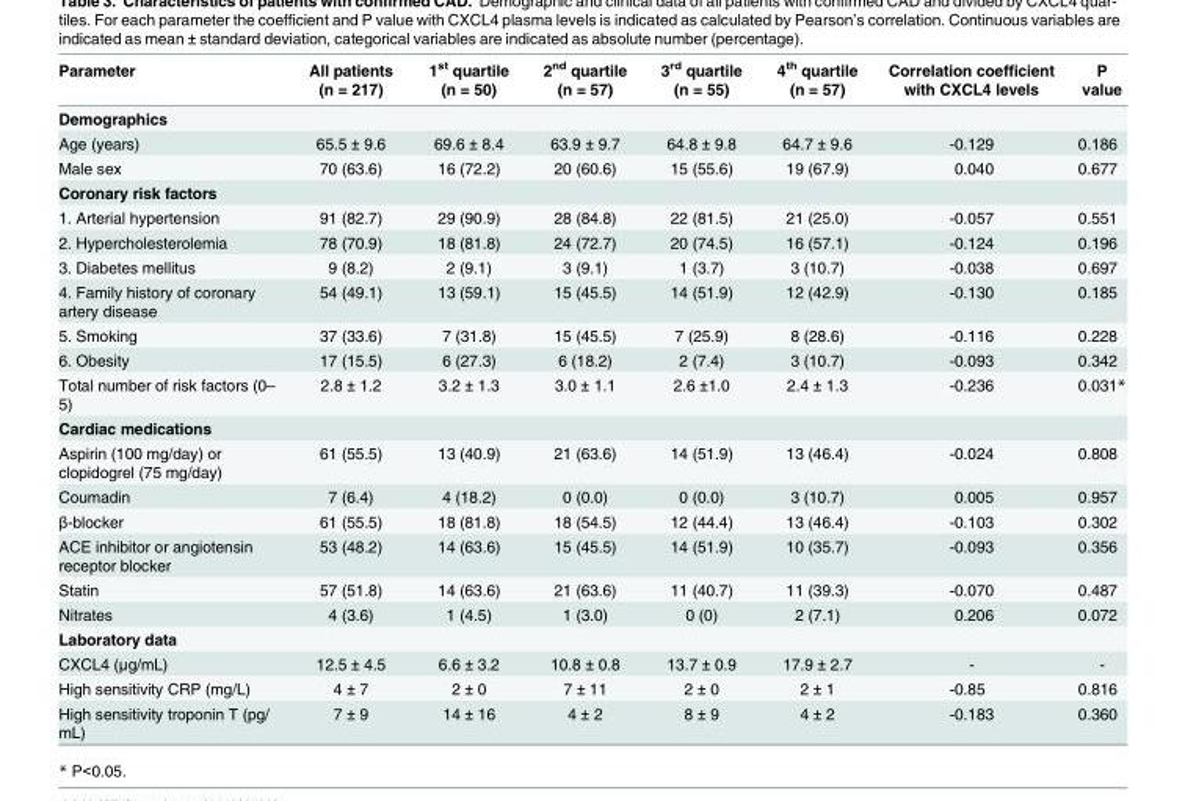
<table><thead><tr><td>Parameter</td><td>All patients (n = 217)</td><td>1<sup>st</sup> quartile (n = 50)</td><td>2<sup>nd</sup> quartile (n = 57)</td><td>3<sup>rd</sup> quartile (n = 55)</td><td>4<sup>th</sup> quartile (n = 57)</td><td>Correlation coefficient with CXCL4 levels</td><td>P value</td></tr></thead><tbody><tr><td colspan="8">Demographics</td></tr><tr><td>Age (years)</td><td>65.5 ± 9.6</td><td>69.6 ± 8.4</td><td>63.9 ± 9.7</td><td>64.8 ± 9.8</td><td>64.7 ± 9.6</td><td>-0.129</td><td>0.186</td></tr><tr><td>Male sex</td><td>70 (63.6)</td><td>16 (72.2)</td><td>20 (60.6)</td><td>15 (55.6)</td><td>19 (67.9)</td><td>0.040</td><td>0.677</td></tr><tr><td colspan="8">Coronary risk factors</td></tr><tr><td>1. Arterial hypertension</td><td>91 (82.7)</td><td>29 (90.9)</td><td>28 (84.8)</td><td>22 (81.5)</td><td>21 (25.0)</td><td>-0.057</td><td>0.551</td></tr><tr><td>2. Hypercholesterolemia</td><td>78 (70.9)</td><td>18 (81.8)</td><td>24 (72.7)</td><td>20 (74.5)</td><td>16 (57.1)</td><td>-0.124</td><td>0.196</td></tr><tr><td>3. Diabetes mellitus</td><td>9 (8.2)</td><td>2 (9.1)</td><td>3 (9.1)</td><td>1 (3.7)</td><td>3 (10.7)</td><td>-0.038</td><td>0.697</td></tr><tr><td>4. Family history of coronary artery disease</td><td>54 (49.1)</td><td>13 (59.1)</td><td>15 (45.5)</td><td>14 (51.9)</td><td>12 (42.9)</td><td>-0.130</td><td>0.185</td></tr><tr><td>5. Smoking</td><td>37 (33.6)</td><td>7 (31.8)</td><td>15 (45.5)</td><td>7 (25.9)</td><td>8 (28.6)</td><td>-0.116</td><td>0.228</td></tr><tr><td>6. Obesity</td><td>17 (15.5)</td><td>6 (27.3)</td><td>6 (18.2)</td><td>2 (7.4)</td><td>3 (10.7)</td><td>-0.093</td><td>0.342</td></tr><tr><td>Total number of risk factors (0– 5)</td><td>2.8 ± 1.2</td><td>3.2 ± 1.3</td><td>3.0 ± 1.1</td><td>2.6 ±1.0</td><td>2.4 ± 1.3</td><td>-0.236</td><td>0.031*</td></tr><tr><td colspan="8">Cardiac medications</td></tr><tr><td>Aspirin (100 mg/day) or clopidogrel (75 mg/day)</td><td>61 (55.5)</td><td>13 (40.9)</td><td>21 (63.6)</td><td>14 (51.9)</td><td>13 (46.4)</td><td>-0.024</td><td>0.808</td></tr><tr><td>Coumadin</td><td>7 (6.4)</td><td>4 (18.2)</td><td>0 (0.0)</td><td>0 (0.0)</td><td>3 (10.7)</td><td>0.005</td><td>0.957</td></tr><tr><td>β-blocker</td><td>61 (55.5)</td><td>18 (81.8)</td><td>18 (54.5)</td><td>12 (44.4)</td><td>13 (46.4)</td><td>-0.103</td><td>0.302</td></tr><tr><td>ACE inhibitor or angiotensin receptor blocker</td><td>53 (48.2)</td><td>14 (63.6)</td><td>15 (45.5)</td><td>14 (51.9)</td><td>10 (35.7)</td><td>-0.093</td><td>0.356</td></tr><tr><td>Statin</td><td>57 (51.8)</td><td>14 (63.6)</td><td>21 (63.6)</td><td>11 (40.7)</td><td>11 (39.3)</td><td>-0.070</td><td>0.487</td></tr><tr><td>Nitrates</td><td>4 (3.6)</td><td>1 (4.5)</td><td>1 (3.0)</td><td>0 (0)</td><td>2 (7.1)</td><td>0.206</td><td>0.072</td></tr><tr><td colspan="8">Laboratory data</td></tr><tr><td>CXCL4 (μg/mL)</td><td>12.5 ± 4.5</td><td>6.6 ± 3.2</td><td>10.8 ± 0.8</td><td>13.7 ± 0.9</td><td>17.9 ± 2.7</td><td>-</td><td>-</td></tr><tr><td>High sensitivity CRP (mg/L)</td><td>4 ± 7</td><td>2 ± 0</td><td>7 ± 11</td><td>2 ± 0</td><td>2 ± 1</td><td>-0.85</td><td>0.816</td></tr><tr><td>High sensitivity troponin T (pg/ mL)</td><td>7 ± 9</td><td>14 ± 16</td><td>4 ± 2</td><td>8 ± 9</td><td>4 ± 2</td><td>-0.183</td><td>0.360</td></tr></tbody></table>